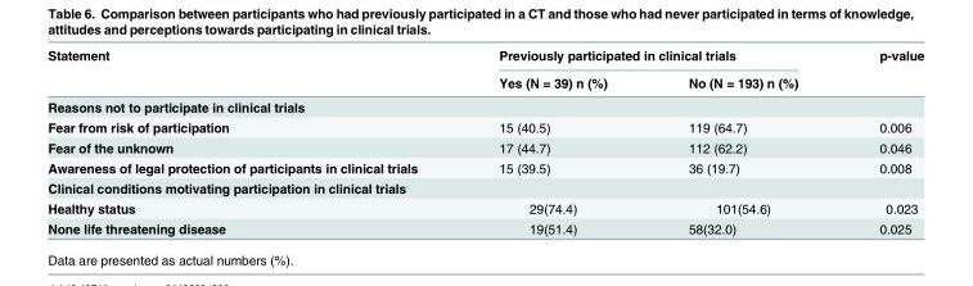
<table><thead><tr><td rowspan="2">Statement</td><td colspan="2">Previously participated in clinical trials</td><td rowspan="2">p-value</td></tr><tr><td>Yes (N = 39) n (%)</td><td>No (N = 193) n (%)</td></tr></thead><tbody><tr><td colspan="4">Reasons not to participate in clinical trials</td></tr><tr><td>Fear from risk of participation</td><td>15 (40.5)</td><td>119 (64.7)</td><td>0.006</td></tr><tr><td>Fear of the unknown</td><td>17 (44.7)</td><td>112 (62.2)</td><td>0.046</td></tr><tr><td>Awareness of legal protection of participants in clinical trials</td><td>15 (39.5)</td><td>36 (19.7)</td><td>0.008</td></tr><tr><td colspan="4">Clinical conditions motivating participation in clinical trials</td></tr><tr><td>Healthy status</td><td>29(74.4)</td><td>101(54.6)</td><td>0.023</td></tr><tr><td>None life threatening disease</td><td>19(51.4)</td><td>58(32.0)</td><td>0.025</td></tr></tbody></table>